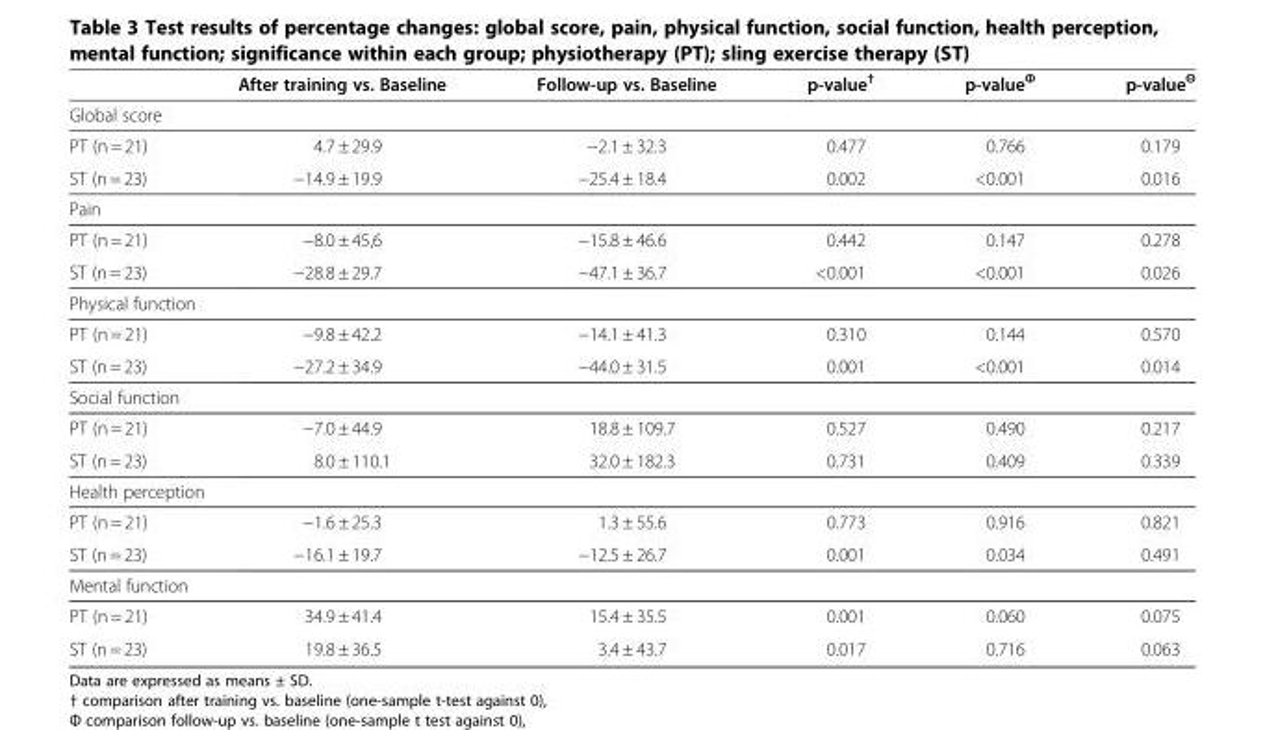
<table><thead><tr><td></td><td>After training vs. Baseline</td><td>Follow-up vs. Baseline</td><td>p-value<sup>†</sup></td><td>p-value<sup>Φ</sup></td><td>p-value<sup>Θ</sup></td></tr></thead><tbody><tr><td colspan="6">Global score</td></tr><tr><td>PT (n = 21)</td><td>4.7 ± 29.9</td><td>−2.1 ± 32.3</td><td>0.477</td><td>0.766</td><td>0.179</td></tr><tr><td>ST (n = 23)</td><td>−14.9 ± 19.9</td><td>−25.4 ± 18.4</td><td>0.002</td><td>&lt;0.001</td><td>0.016</td></tr><tr><td colspan="6">Pain</td></tr><tr><td>PT (n = 21)</td><td>−8.0 ± 45,6</td><td>−15.8 ± 46.6</td><td>0.442</td><td>0.147</td><td>0.278</td></tr><tr><td>ST (n = 23)</td><td>−28.8 ± 29.7</td><td>−47.1 ± 36.7</td><td>&lt;0.001</td><td>&lt;0.001</td><td>0.026</td></tr><tr><td colspan="6">Physical function</td></tr><tr><td>PT (n = 21)</td><td>−9.8 ± 42.2</td><td>−14.1 ± 41.3</td><td>0.310</td><td>0.144</td><td>0.570</td></tr><tr><td>ST (n = 23)</td><td>−27.2 ± 34.9</td><td>−44.0 ± 31.5</td><td>0.001</td><td>&lt;0.001</td><td>0.014</td></tr><tr><td colspan="6">Social function</td></tr><tr><td>PT (n = 21)</td><td>−7.0 ± 44.9</td><td>18.8 ± 109.7</td><td>0.527</td><td>0.490</td><td>0.217</td></tr><tr><td>ST (n = 23)</td><td>8.0 ± 110.1</td><td>32.0 ± 182.3</td><td>0.731</td><td>0.409</td><td>0.339</td></tr><tr><td colspan="6">Health perception</td></tr><tr><td>PT (n = 21)</td><td>−1.6 ± 25.3</td><td>1.3 ± 55.6</td><td>0.773</td><td>0.916</td><td>0.821</td></tr><tr><td>ST (n = 23)</td><td>−16.1 ± 19.7</td><td>−12.5 ± 26.7</td><td>0.001</td><td>0.034</td><td>0.491</td></tr><tr><td colspan="6">Mental function</td></tr><tr><td>PT (n = 21)</td><td>34.9 ± 41.4</td><td>15.4 ± 35.5</td><td>0.001</td><td>0.060</td><td>0.075</td></tr><tr><td>ST (n = 23)</td><td>19.8 ± 36.5</td><td>3.4 ± 43.7</td><td>0.017</td><td>0.716</td><td>0.063</td></tr></tbody></table>